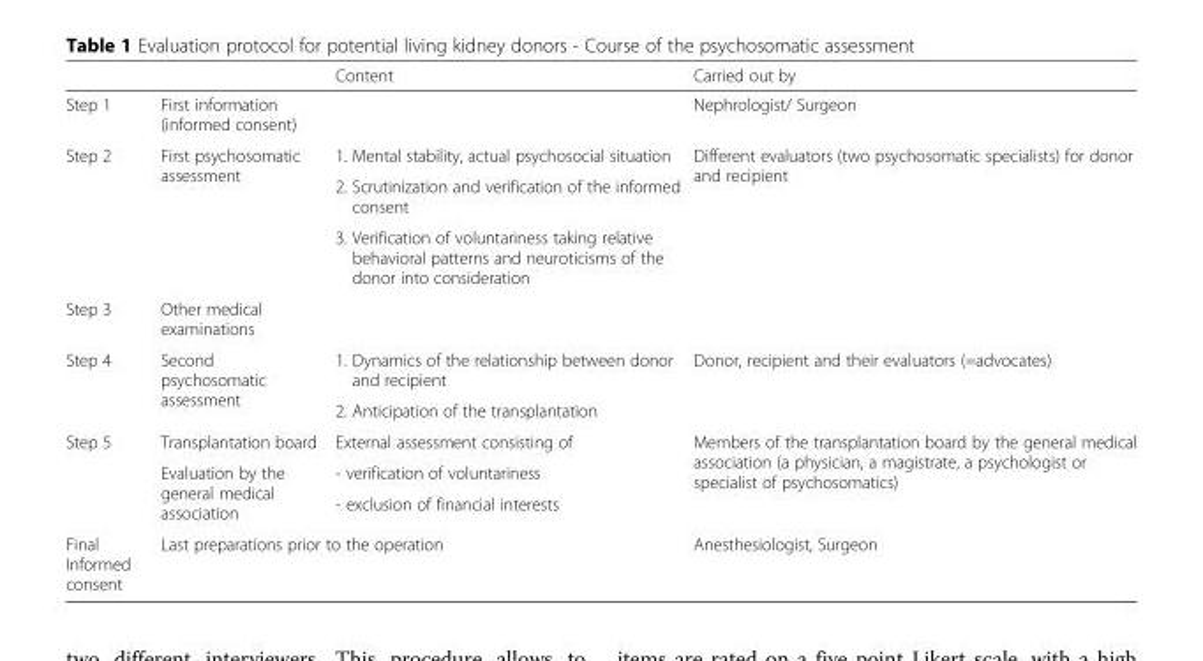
<table><thead><tr><td></td><td></td><td>Content</td><td>Carried out by</td></tr></thead><tbody><tr><td>Step 1</td><td>First information (informed consent)</td><td></td><td>Nephrologist/ Surgeon</td></tr><tr><td rowspan="3">Step 2</td><td rowspan="3">First psychosomatic assessment</td><td>1. Mental stability, actual psychosocial situation</td><td rowspan="3">Different evaluators (two psychosomatic specialists) for donor and recipient</td></tr><tr><td>2. Scrutinization and verification of the informed consent</td></tr><tr><td>3. Verification of voluntariness taking relative behavioral patterns and neuroticisms of the donor into consideration</td></tr><tr><td>Step 3</td><td>Other medical examinations</td><td></td><td></td></tr><tr><td rowspan="2">Step 4</td><td rowspan="2">Second psychosomatic assessment</td><td>1. Dynamics of the relationship between donor and recipient</td><td rowspan="2">Donor, recipient and their evaluators (=advocates)</td></tr><tr><td>2. Anticipation of the transplantation</td></tr><tr><td rowspan="3">Step 5</td><td>Transplantation board</td><td>External assessment consisting of</td><td rowspan="3">Members of the transplantation board by the general medical association (a physician, a magistrate, a psychologist or specialist of psychosomatics)</td></tr><tr><td rowspan="2">Evaluation by the general medical association</td><td>- verification of voluntariness</td></tr><tr><td>- exclusion of financial interests</td></tr><tr><td>Final Informed consent</td><td colspan="2">Last preparations prior to the operation</td><td>Anesthesiologist, Surgeon</td></tr></tbody></table>